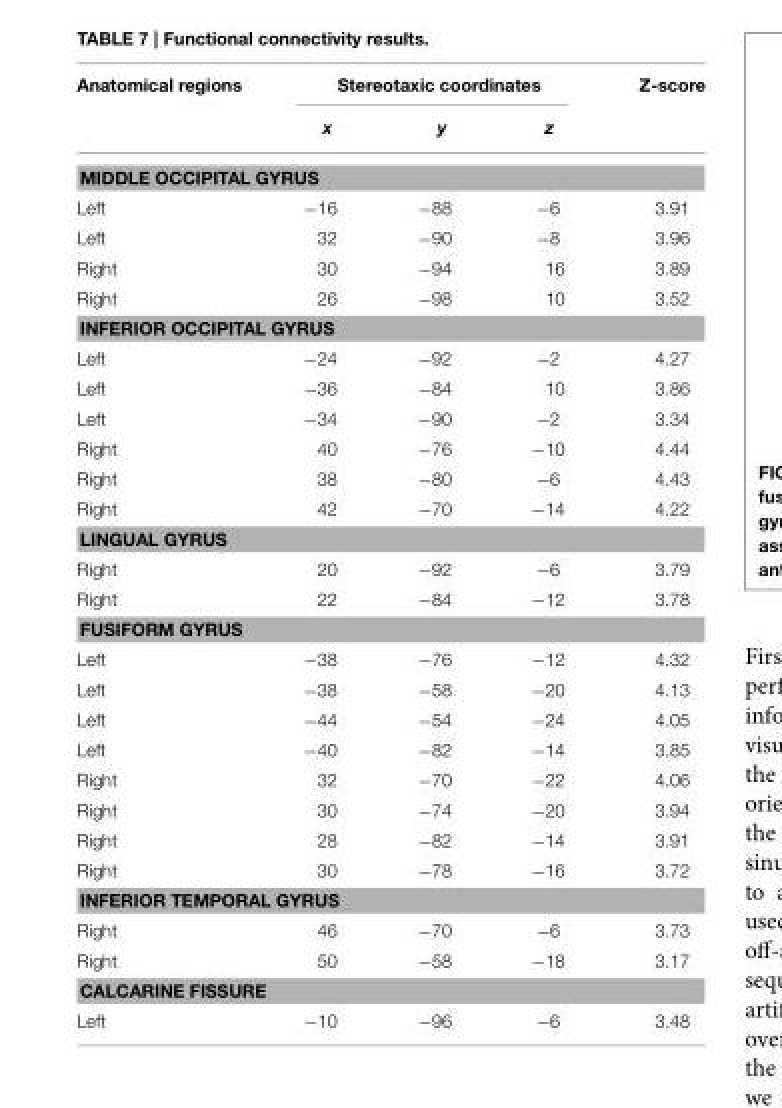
<table><thead><tr><td rowspan="2">Anatomical regions</td><td colspan="3">Stereotaxic coordinates</td><td rowspan="2">Z-score</td></tr><tr><td>x</td><td>y</td><td>z</td></tr></thead><tbody><tr><td colspan="5">MIDDLE OCCIPITAL GYRUS</td></tr><tr><td>Left</td><td>−16</td><td>−88</td><td>−6</td><td>3.91</td></tr><tr><td>Left</td><td>32</td><td>−90</td><td>−8</td><td>3.96</td></tr><tr><td>Right</td><td>30</td><td>−94</td><td>16</td><td>3.89</td></tr><tr><td>Right</td><td>26</td><td>−98</td><td>10</td><td>3.52</td></tr><tr><td colspan="5">INFERIOR OCCIPITAL GYRUS</td></tr><tr><td>Left</td><td>−24</td><td>−92</td><td>−2</td><td>4.27</td></tr><tr><td>Left</td><td>−36</td><td>−84</td><td>10</td><td>3.86</td></tr><tr><td>Left</td><td>−34</td><td>−90</td><td>−2</td><td>3.34</td></tr><tr><td>Right</td><td>40</td><td>−76</td><td>−10</td><td>4.44</td></tr><tr><td>Right</td><td>38</td><td>−80</td><td>−6</td><td>4.43</td></tr><tr><td>Right</td><td>42</td><td>−70</td><td>−14</td><td>4.22</td></tr><tr><td colspan="5">LINGUAL GYRUS</td></tr><tr><td>Right</td><td>20</td><td>−92</td><td>−6</td><td>3.79</td></tr><tr><td>Right</td><td>22</td><td>−84</td><td>−12</td><td>3.78</td></tr><tr><td colspan="5">FUSIFORM GYRUS</td></tr><tr><td>Left</td><td>−38</td><td>−76</td><td>−12</td><td>4.32</td></tr><tr><td>Left</td><td>−38</td><td>−58</td><td>−20</td><td>4.13</td></tr><tr><td>Left</td><td>−44</td><td>−54</td><td>−24</td><td>4.05</td></tr><tr><td>Left</td><td>−40</td><td>−82</td><td>−14</td><td>3.85</td></tr><tr><td>Right</td><td>32</td><td>−70</td><td>−22</td><td>4.06</td></tr><tr><td>Right</td><td>30</td><td>−74</td><td>−20</td><td>3.94</td></tr><tr><td>Right</td><td>28</td><td>−82</td><td>−14</td><td>3.91</td></tr><tr><td>Right</td><td>30</td><td>−78</td><td>−16</td><td>3.72</td></tr><tr><td colspan="5">INFERIOR TEMPORAL GYRUS</td></tr><tr><td>Right</td><td>46</td><td>−70</td><td>−6</td><td>3.73</td></tr><tr><td>Right</td><td>50</td><td>−58</td><td>−18</td><td>3.17</td></tr><tr><td colspan="5">CALCARINE FISSURE</td></tr><tr><td>Left</td><td>−10</td><td>−96</td><td>−6</td><td>3.48</td></tr></tbody></table>